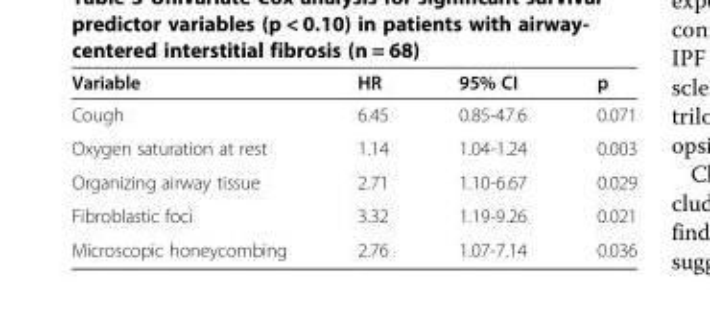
<table><thead><tr><td>Variable</td><td>HR</td><td>95% CI</td><td>p</td></tr></thead><tbody><tr><td>Cough</td><td>6.45</td><td>0.85-47.6</td><td>0.071</td></tr><tr><td>Oxygen saturation at rest</td><td>1.14</td><td>1.04-1.24</td><td>0.003</td></tr><tr><td>Organizing airway tissue</td><td>2.71</td><td>1.10-6.67</td><td>0.029</td></tr><tr><td>Fibroblastic foci</td><td>3.32</td><td>1.19-9.26</td><td>0.021</td></tr><tr><td>Microscopic honeycombing</td><td>2.76</td><td>1.07-7.14</td><td>0.036</td></tr></tbody></table>